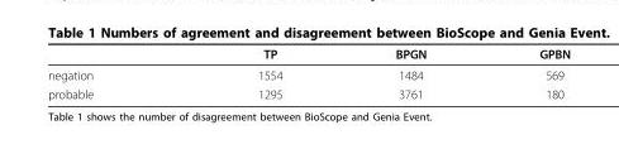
<table><thead><tr><td></td><td>TP</td><td>BPGN</td><td>GPBN</td></tr></thead><tbody><tr><td>negation</td><td>1554</td><td>1484</td><td>569</td></tr><tr><td>probable</td><td>1295</td><td>3761</td><td>180</td></tr></tbody></table>